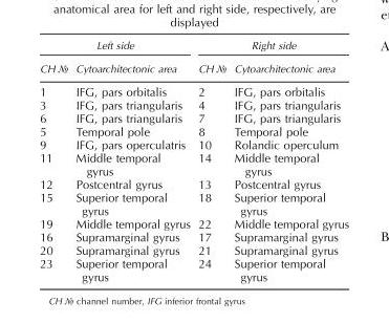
<table><thead><tr><td colspan="2">Left side</td><td colspan="2">Right side</td></tr><tr><td>CH №</td><td>Cytoarchitectonic area</td><td>CH №</td><td>Cytoarchitectonic area</td></tr></thead><tbody><tr><td>1</td><td>IFG, pars orbitalis</td><td>2</td><td>IFG, pars orbitalis</td></tr><tr><td>3</td><td>IFG, pars triangularis</td><td>4</td><td>IFG, pars triangularis</td></tr><tr><td>6</td><td>IFG, pars triangularis</td><td>7</td><td>IFG, pars triangularis</td></tr><tr><td>5</td><td>Temporal pole</td><td>8</td><td>Temporal pole</td></tr><tr><td>9</td><td>IFG, pars operculatris</td><td>10</td><td>Rolandic operculum</td></tr><tr><td>11</td><td>Middle temporal gyrus</td><td>14</td><td>Middle temporal gyrus</td></tr><tr><td>12</td><td>Postcentral gyrus</td><td>13</td><td>Postcentral gyrus</td></tr><tr><td>15</td><td>Superior temporal gyrus</td><td>18</td><td>Superior temporal gyrus</td></tr><tr><td>19</td><td>Middle temporal gyrus</td><td>22</td><td>Middle temporal gyrus</td></tr><tr><td>16</td><td>Supramarginal gyrus</td><td>17</td><td>Supramarginal gyrus</td></tr><tr><td>20</td><td>Supramarginal gyrus</td><td>21</td><td>Supramarginal gyrus</td></tr><tr><td>23</td><td>Superior temporal gyrus</td><td>24</td><td>Superior temporal gyrus</td></tr></tbody></table>